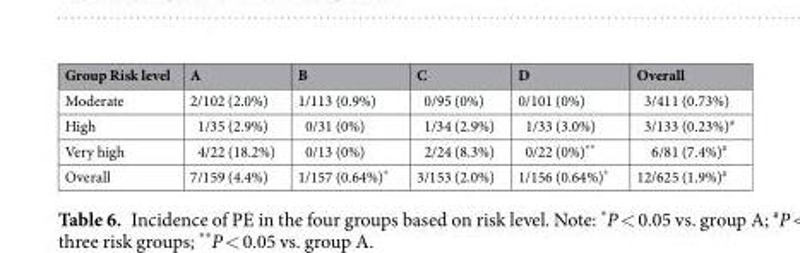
<table><thead><tr><td>Group Risk level</td><td>A</td><td>B</td><td>C</td><td>D</td><td>Overall</td></tr></thead><tbody><tr><td>Moderate</td><td>2/102 (2.0%)</td><td>1/113 (0.9%)</td><td>0/95 (0%)</td><td>0/101 (0%)</td><td>3/411 (0.73%)</td></tr><tr><td>High</td><td>1/35 (2.9%)</td><td>0/31 (0%)</td><td>1/34 (2.9%)</td><td>1/33 (3.0%)</td><td>3/133 (0.23%)<sup>#</sup></td></tr><tr><td>Very high</td><td>4/22 (18.2%)</td><td>0/13 (0%)</td><td>2/24 (8.3%)</td><td>0/22 (0%)**</td><td>6/81 (7.4%)<sup>#</sup></td></tr><tr><td>Overall</td><td>7/159 (4.4%)</td><td>1/157 (0.64%)*</td><td>3/153 (2.0%)</td><td>1/156 (0.64%)*</td><td>12/625 (1.9%)<sup>#</sup></td></tr></tbody></table>